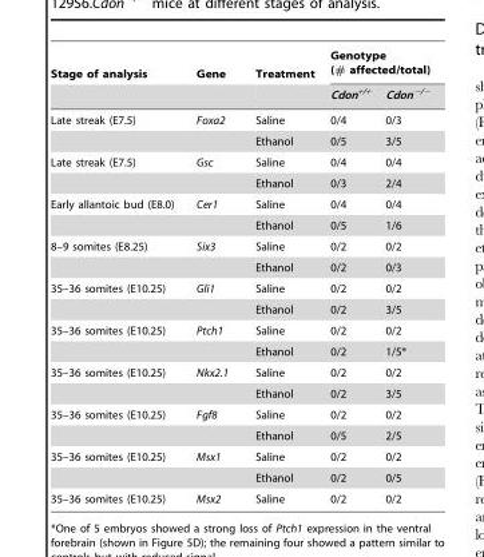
<table><thead><tr><td rowspan="2">Stage of analysis</td><td rowspan="2">Gene</td><td rowspan="2">Treatment</td><td colspan="2">Genotype (# affected/total)</td></tr><tr><td>Cdon<sup>+/+</sup></td><td>Cdon<sup>−/−</sup></td></tr></thead><tbody><tr><td rowspan="2">Late streak (E7.5)</td><td>Foxa2</td><td>Saline</td><td>0/4</td><td>0/3</td></tr><tr><td></td><td>Ethanol</td><td>0/5</td><td>3/5</td></tr><tr><td rowspan="2">Late streak (E7.5)</td><td>Gsc</td><td>Saline</td><td>0/4</td><td>0/4</td></tr><tr><td></td><td>Ethanol</td><td>0/3</td><td>2/4</td></tr><tr><td rowspan="2">Early allantoic bud (E8.0)</td><td>Cer1</td><td>Saline</td><td>0/4</td><td>0/4</td></tr><tr><td></td><td>Ethanol</td><td>0/5</td><td>1/6</td></tr><tr><td rowspan="2">8–9 somites (E8.25)</td><td>Six3</td><td>Saline</td><td>0/2</td><td>0/2</td></tr><tr><td></td><td>Ethanol</td><td>0/2</td><td>0/3</td></tr><tr><td rowspan="2">35–36 somites (E10.25)</td><td>Gli1</td><td>Saline</td><td>0/2</td><td>0/2</td></tr><tr><td></td><td>Ethanol</td><td>0/2</td><td>3/5</td></tr><tr><td rowspan="2">35–36 somites (E10.25)</td><td>Ptch1</td><td>Saline</td><td>0/2</td><td>0/2</td></tr><tr><td></td><td>Ethanol</td><td>0/2</td><td>1/5*</td></tr><tr><td rowspan="2">35–36 somites (E10.25)</td><td>Nkx2.1</td><td>Saline</td><td>0/2</td><td>0/2</td></tr><tr><td></td><td>Ethanol</td><td>0/2</td><td>3/5</td></tr><tr><td rowspan="2">35–36 somites (E10.25)</td><td>Fgf8</td><td>Saline</td><td>0/2</td><td>0/2</td></tr><tr><td></td><td>Ethanol</td><td>0/5</td><td>2/5</td></tr><tr><td rowspan="2">35–36 somites (E10.25)</td><td>Msx1</td><td>Saline</td><td>0/2</td><td>0/2</td></tr><tr><td></td><td>Ethanol</td><td>0/2</td><td>0/5</td></tr><tr><td>35–36 somites (E10.25)</td><td>Msx2</td><td>Saline</td><td>0/2</td><td>0/2</td></tr></tbody></table>